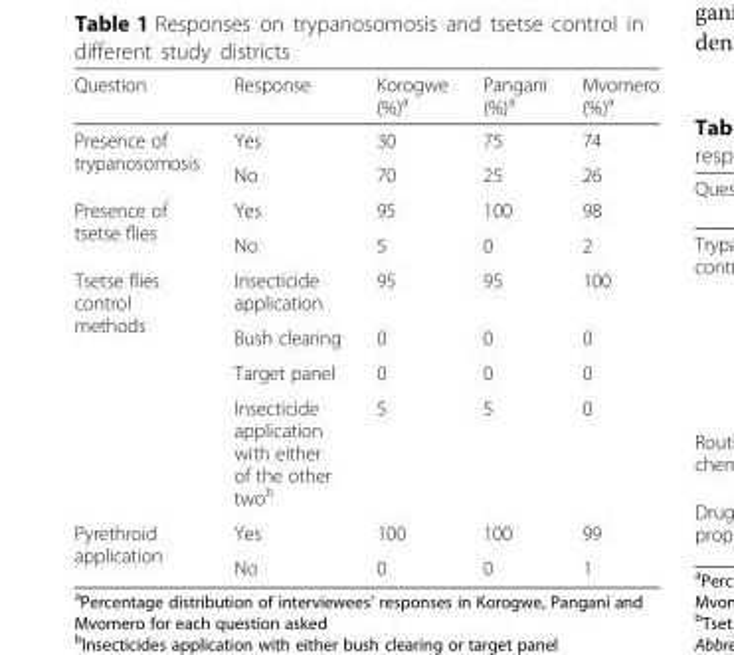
<table><thead><tr><td>Question</td><td>Response</td><td>Korogwe (%)<sup>a</sup></td><td>Pangani (%)<sup>a</sup></td><td>Mvomero (%)<sup>a</sup></td></tr></thead><tbody><tr><td rowspan="2">Presence of trypanosomosis</td><td>Yes</td><td>30</td><td>75</td><td>74</td></tr><tr><td>No</td><td>70</td><td>25</td><td>26</td></tr><tr><td rowspan="2">Presence of tsetse flies</td><td>Yes</td><td>95</td><td>100</td><td>98</td></tr><tr><td>No</td><td>5</td><td>0</td><td>2</td></tr><tr><td rowspan="4">Tsetse flies control methods</td><td>Insecticide application</td><td>95</td><td>95</td><td>100</td></tr><tr><td>Bush clearing</td><td>0</td><td>0</td><td>0</td></tr><tr><td>Target panel</td><td>0</td><td>0</td><td>0</td></tr><tr><td>Insecticide application with either of the other two<sup>b</sup></td><td>5</td><td>5</td><td>0</td></tr><tr><td rowspan="2">Pyrethroid application</td><td>Yes</td><td>100</td><td>100</td><td>99</td></tr><tr><td>No</td><td>0</td><td>0</td><td>1</td></tr></tbody></table>